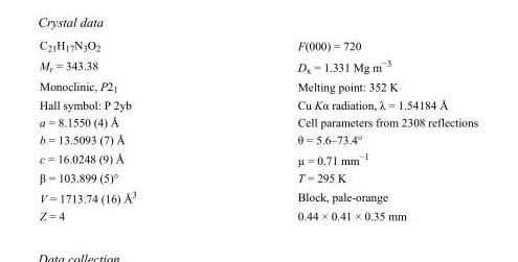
<table><tbody><tr><td>C<sub>21</sub>H<sub>17</sub>N<sub>3</sub>O<sub>2</sub></td><td>F(000) = 720</td></tr><tr><td>M<sub>r</sub> = 343.38</td><td>D<sub>x</sub> = 1.331 Mg m<sup>−3</sup></td></tr><tr><td>Monoclinic, P2<sub>1</sub></td><td>Melting point: 352 K</td></tr><tr><td>Hall symbol: P 2yb</td><td>Cu Kα radiation, λ = 1.54184 Å</td></tr><tr><td>a = 8.1550 (4) Å</td><td>Cell parameters from 2308 reflections</td></tr><tr><td>b = 13.5093 (7) Å</td><td>θ = 5.6–73.4°</td></tr><tr><td>c = 16.0248 (9) Å</td><td>µ = 0.71 mm<sup>−1</sup></td></tr><tr><td>β = 103.899 (5)°</td><td>T = 295 K</td></tr><tr><td>V = 1713.74 (16) Å<sup>3</sup></td><td>Block, pale-orange</td></tr><tr><td>Z = 4</td><td>0.44 × 0.41 × 0.35 mm</td></tr></tbody></table>